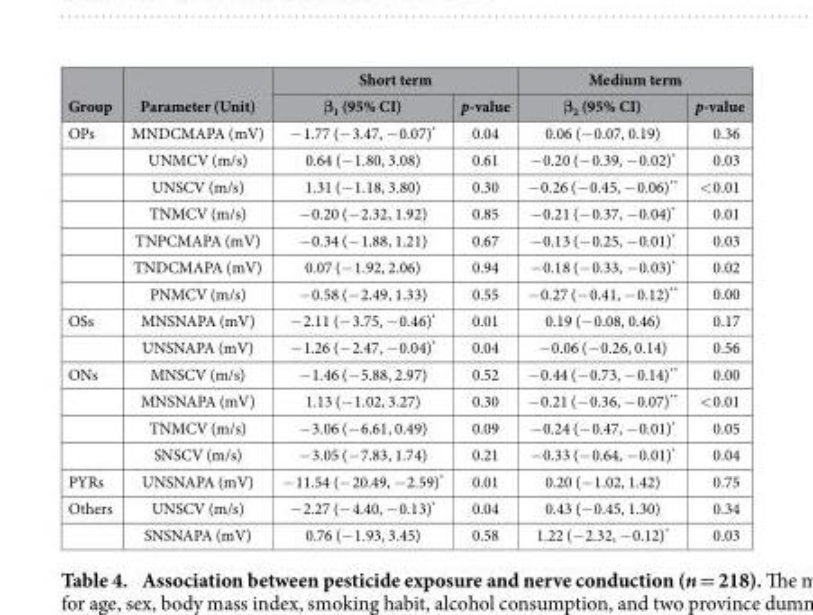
<table><thead><tr><td rowspan="2">Group</td><td rowspan="2">Parameter (Unit)</td><td colspan="2">Short term</td><td colspan="2">Medium term</td></tr><tr><td>β<sub>1</sub> (95% CI)</td><td>p-value</td><td>β<sub>2</sub> (95% CI)</td><td>p-value</td></tr></thead><tbody><tr><td rowspan="7">OPs</td><td>MNDCMAPA (mV)</td><td>− 1.77 (− 3.47, − 0.07)*</td><td>0.04</td><td>0.06 (− 0.07, 0.19)</td><td>0.36</td></tr><tr><td>UNMCV (m/s)</td><td>0.64 (− 1.80, 3.08)</td><td>0.61</td><td>− 0.20 (− 0.39, − 0.02)*</td><td>0.03</td></tr><tr><td>UNSCV (m/s)</td><td>1.31 (− 1.18, 3.80)</td><td>0.30</td><td>− 0.26 (− 0.45, − 0.06)**</td><td>&lt; 0.01</td></tr><tr><td>TNMCV (m/s)</td><td>− 0.20 (− 2.32, 1.92)</td><td>0.85</td><td>− 0.21 (− 0.37, − 0.04)*</td><td>0.01</td></tr><tr><td>TNPCMAPA (mV)</td><td>− 0.34 (− 1.88, 1.21)</td><td>0.67</td><td>− 0.13 (− 0.25, − 0.01)*</td><td>0.03</td></tr><tr><td>TNDCMAPA (mV)</td><td>0.07 (− 1.92, 2.06)</td><td>0.94</td><td>− 0.18 (− 0.33, − 0.03)*</td><td>0.02</td></tr><tr><td>PNMCV (m/s)</td><td>− 0.58 (− 2.49, 1.33)</td><td>0.55</td><td>− 0.27 (− 0.41, − 0.12)**</td><td>0.00</td></tr><tr><td rowspan="2">OSs</td><td>MNSNAPA (mV)</td><td>− 2.11 (− 3.75, − 0.46)*</td><td>0.01</td><td>0.19 (− 0.08, 0.46)</td><td>0.17</td></tr><tr><td>UNSNAPA (mV)</td><td>− 1.26 (− 2.47, − 0.04)*</td><td>0.04</td><td>− 0.06 (− 0.26, 0.14)</td><td>0.56</td></tr><tr><td rowspan="4">ONs</td><td>MNSCV (m/s)</td><td>− 1.46 (− 5.88, 2.97)</td><td>0.52</td><td>− 0.44 (− 0.73, − 0.14)**</td><td>0.00</td></tr><tr><td>MNSNAPA (mV)</td><td>1.13 (− 1.02, 3.27)</td><td>0.30</td><td>− 0.21 (− 0.36, − 0.07)**</td><td>&lt; 0.01</td></tr><tr><td>TNMCV (m/s)</td><td>− 3.06 (− 6.61, 0.49)</td><td>0.09</td><td>− 0.24 (− 0.47, − 0.01)*</td><td>0.05</td></tr><tr><td>SNSCV (m/s)</td><td>− 3.05 (− 7.83, 1.74)</td><td>0.21</td><td>− 0.33 (− 0.64, − 0.01)*</td><td>0.04</td></tr><tr><td>PYRs</td><td>UNSNAPA (mV)</td><td>− 11.54 (− 20.49, − 2.59)*</td><td>0.01</td><td>0.20 (− 1.02, 1.42)</td><td>0.75</td></tr><tr><td rowspan="2">Others</td><td>UNSCV (m/s)</td><td>− 2.27 (− 4.40, − 0.13)*</td><td>0.04</td><td>0.43 (− 0.45, 1.30)</td><td>0.34</td></tr><tr><td>SNSNAPA (mV)</td><td>0.76 (− 1.93, 3.45)</td><td>0.58</td><td>1.22 (− 2.32, − 0.12)*</td><td>0.03</td></tr></tbody></table>